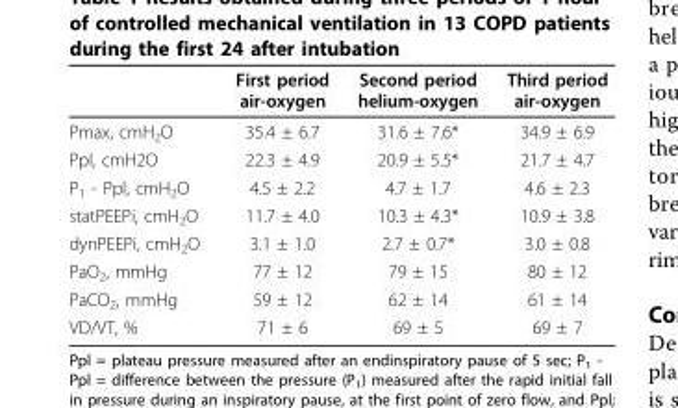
<table><thead><tr><td></td><td>First period air-oxygen</td><td>Second period helium-oxygen</td><td>Third period air-oxygen</td></tr></thead><tbody><tr><td>Pmax, cmH<sub>2</sub>O</td><td>35.4 ± 6.7</td><td>31.6 ± 7.6*</td><td>34.9 ± 6.9</td></tr><tr><td>Ppl, cmH2O</td><td>22.3 ± 4.9</td><td>20.9 ± 5.5*</td><td>21.7 ± 4.7</td></tr><tr><td>P<sub>1</sub> - Ppl, cmH<sub>2</sub>O</td><td>4.5 ± 2.2</td><td>4.7 ± 1.7</td><td>4.6 ± 2.3</td></tr><tr><td>statPEEPi, cmH<sub>2</sub>O</td><td>11.7 ± 4.0</td><td>10.3 ± 4.3*</td><td>10.9 ± 3.8</td></tr><tr><td>dynPEEPi, cmH<sub>2</sub>O</td><td>3.1 ± 1.0</td><td>2.7 ± 0.7*</td><td>3.0 ± 0.8</td></tr><tr><td>PaO<sub>2</sub>, mmHg</td><td>77 ± 12</td><td>79 ± 15</td><td>80 ± 12</td></tr><tr><td>PaCO<sub>2</sub>, mmHg</td><td>59 ± 12</td><td>62 ± 14</td><td>61 ± 14</td></tr><tr><td>VD/VT, %</td><td>71 ± 6</td><td>69 ± 5</td><td>69 ± 7</td></tr></tbody></table>